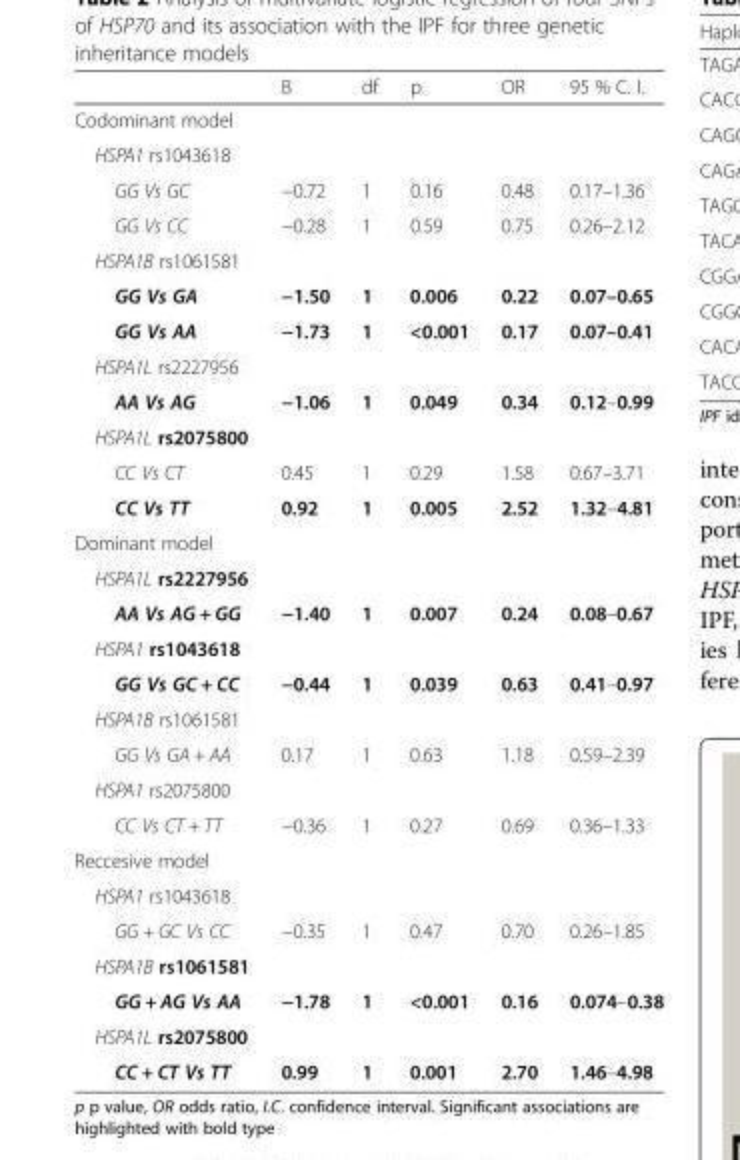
<table><thead><tr><td></td><td>B</td><td>df</td><td>p</td><td>OR</td><td>95 % C. I.</td></tr></thead><tbody><tr><td colspan="6">Codominant model</td></tr><tr><td colspan="6">HSPA1 rs1043618</td></tr><tr><td>GG Vs GC</td><td>−0.72</td><td>1</td><td>0.16</td><td>0.48</td><td>0.17–1.36</td></tr><tr><td>GG Vs CC</td><td>−0.28</td><td>1</td><td>0.59</td><td>0.75</td><td>0.26–2.12</td></tr><tr><td colspan="6">HSPA1B rs1061581</td></tr><tr><td>GG Vs GA</td><td>−1.50</td><td>1</td><td>0.006</td><td>0.22</td><td>0.07–0.65</td></tr><tr><td>GG Vs AA</td><td>−1.73</td><td>1</td><td>&lt;0.001</td><td>0.17</td><td>0.07–0.41</td></tr><tr><td colspan="6">HSPA1L rs2227956</td></tr><tr><td>AA Vs AG</td><td>−1.06</td><td>1</td><td>0.049</td><td>0.34</td><td>0.12–0.99</td></tr><tr><td colspan="6">HSPA1L rs2075800</td></tr><tr><td>CC Vs CT</td><td>0.45</td><td>1</td><td>0.29</td><td>1.58</td><td>0.67–3.71</td></tr><tr><td>CC Vs TT</td><td>0.92</td><td>1</td><td>0.005</td><td>2.52</td><td>1.32–4.81</td></tr><tr><td colspan="6">Dominant model</td></tr><tr><td colspan="6">HSPA1L rs2227956</td></tr><tr><td>AA Vs AG + GG</td><td>−1.40</td><td>1</td><td>0.007</td><td>0.24</td><td>0.08–0.67</td></tr><tr><td colspan="6">HSPA1 rs1043618</td></tr><tr><td>GG Vs GC + CC</td><td>−0.44</td><td>1</td><td>0.039</td><td>0.63</td><td>0.41–0.97</td></tr><tr><td colspan="6">HSPA1B rs1061581</td></tr><tr><td>GG Vs GA + AA</td><td>0.17</td><td>1</td><td>0.63</td><td>1.18</td><td>0.59–2.39</td></tr><tr><td colspan="6">HSPA1 rs2075800</td></tr><tr><td>CC Vs CT + TT</td><td>−0.36</td><td>1</td><td>0.27</td><td>0.69</td><td>0.36–1.33</td></tr><tr><td colspan="6">Reccesive model</td></tr><tr><td colspan="6">HSPA1 rs1043618</td></tr><tr><td>GG + GC Vs CC</td><td>−0.35</td><td>1</td><td>0.47</td><td>0.70</td><td>0.26–1.85</td></tr><tr><td colspan="6">HSPA1B rs1061581</td></tr><tr><td>GG + AG Vs AA</td><td>−1.78</td><td>1</td><td>&lt;0.001</td><td>0.16</td><td>0.074–0.38</td></tr><tr><td colspan="6">HSPA1L rs2075800</td></tr><tr><td>CC + CT Vs TT</td><td>0.99</td><td>1</td><td>0.001</td><td>2.70</td><td>1.46–4.98</td></tr></tbody></table>